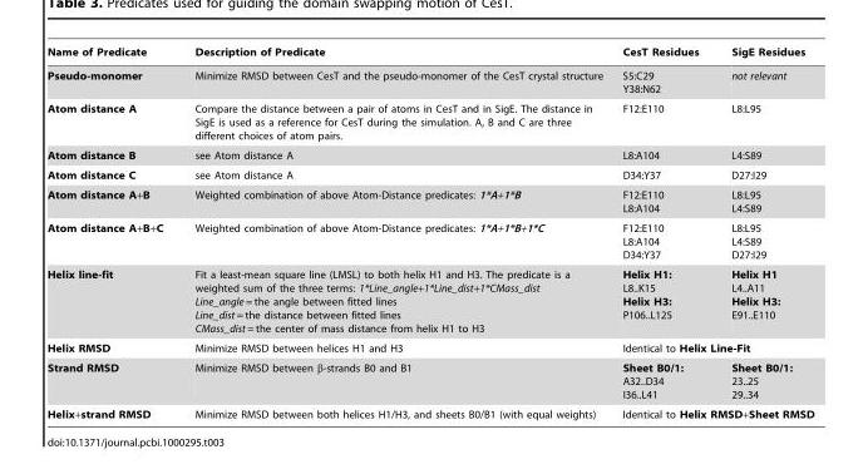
<table><thead><tr><td>Name of Predicate</td><td>Description of Predicate</td><td>CesT Residues</td><td>SigE Residues</td></tr></thead><tbody><tr><td>Pseudo-monomer</td><td>Minimize RMSD between CesT and the pseudo-monomer of the CesT crystal structure</td><td>S5:C29 Y38:N62</td><td>not relevant</td></tr><tr><td>Atom distance A</td><td>Compare the distance between a pair of atoms in CesT and in SigE. The distance in SigE is used as a reference for CesT during the simulation. A, B and C are three different choices of atom pairs.</td><td>F12:E110</td><td>L8:L95</td></tr><tr><td>Atom distance B</td><td>see Atom distance A</td><td>L8:A104</td><td>L4:S89</td></tr><tr><td>Atom distance C</td><td>see Atom distance A</td><td>D34:Y37</td><td>D27:I29</td></tr><tr><td>Atom distance A+B</td><td>Weighted combination of above Atom-Distance predicates: 1*A+1*B</td><td>F12:E110 L8:A104</td><td>L8:L95 L4:S89</td></tr><tr><td>Atom distance A+B+C</td><td>Weighted combination of above Atom-Distance predicates: 1*A+1*B+1*C</td><td>F12:E110 L8:A104 D34:Y37</td><td>L8:L95 L4:S89 D27:I29</td></tr><tr><td>Helix line-fit</td><td>Fit a least-mean square line (LMSL) to both helix H1 and H3. The predicate is a weighted sum of the three terms: 1*Line_angle+1*Line_dist+1*CMass_dist Line_angle = the angle between fitted lines Line_dist = the distance between fitted lines CMass_dist = the center of mass distance from helix H1 to H3</td><td>Helix H1: L8..K15 Helix H3: P106..L125</td><td>Helix H1 L4..A11 Helix H3: E91..E110</td></tr><tr><td>Helix RMSD</td><td>Minimize RMSD between helices H1 and H3</td><td colspan="2">Identical to Helix Line-Fit</td></tr><tr><td>Strand RMSD</td><td>Minimize RMSD between β-strands B0 and B1</td><td>Sheet B0/1: A32..D34 I36..L41</td><td>Sheet B0/1: 23..25 29..34</td></tr><tr><td>Helix+strand RMSD</td><td>Minimize RMSD between both helices H1/H3, and sheets B0/B1 (with equal weights)</td><td colspan="2">Identical to Helix RMSD+Sheet RMSD</td></tr></tbody></table>